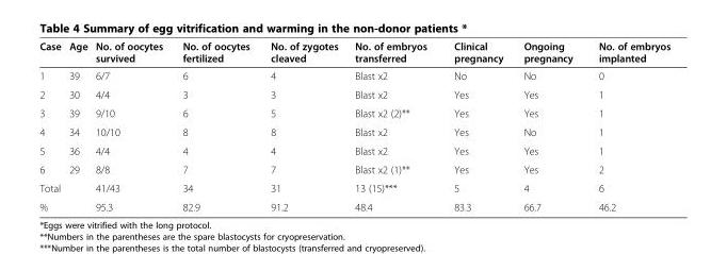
<table><thead><tr><td>Case</td><td>Age</td><td>No. of oocytes survived</td><td>No. of oocytes fertilized</td><td>No. of zygotes cleaved</td><td>No. of embryos transferred</td><td>Clinical pregnancy</td><td>Ongoing pregnancy</td><td>No. of embryos implanted</td></tr></thead><tbody><tr><td>1</td><td>39</td><td>6/7</td><td>6</td><td>4</td><td>Blast x2</td><td>No</td><td>No</td><td>0</td></tr><tr><td>2</td><td>30</td><td>4/4</td><td>3</td><td>3</td><td>Blast x2</td><td>Yes</td><td>Yes</td><td>1</td></tr><tr><td>3</td><td>39</td><td>9/10</td><td>6</td><td>5</td><td>Blast x2 (2)**</td><td>Yes</td><td>Yes</td><td>1</td></tr><tr><td>4</td><td>34</td><td>10/10</td><td>8</td><td>8</td><td>Blast x2</td><td>Yes</td><td>No</td><td>1</td></tr><tr><td>5</td><td>36</td><td>4/4</td><td>4</td><td>4</td><td>Blast x2</td><td>Yes</td><td>Yes</td><td>1</td></tr><tr><td>6</td><td>29</td><td>8/8</td><td>7</td><td>7</td><td>Blast x2 (1)**</td><td>Yes</td><td>Yes</td><td>2</td></tr><tr><td colspan="2">Total</td><td>41/43</td><td>34</td><td>31</td><td>13 (15)***</td><td>5</td><td>4</td><td>6</td></tr><tr><td colspan="2">%</td><td>95.3</td><td>82.9</td><td>91.2</td><td>48.4</td><td>83.3</td><td>66.7</td><td>46.2</td></tr></tbody></table>